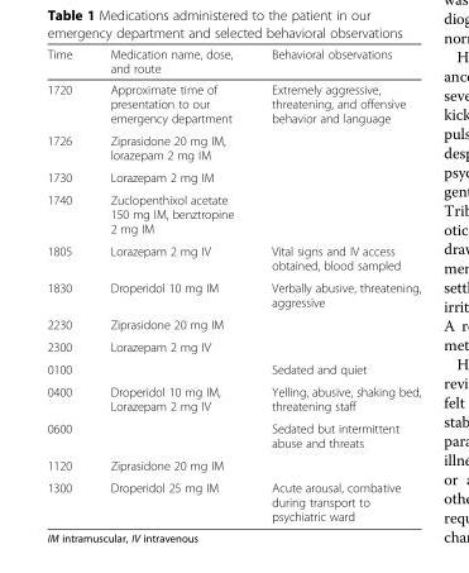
<table><thead><tr><td>Time</td><td>Medication name, dose, and route</td><td>Behavioral observations</td></tr></thead><tbody><tr><td>1720</td><td>Approximate time of presentation to our emergency department</td><td>Extremely aggressive, threatening, and offensive behavior and language</td></tr><tr><td>1726</td><td>Ziprasidone 20 mg IM, lorazepam 2 mg IM</td><td></td></tr><tr><td>1730</td><td>Lorazepam 2 mg IM</td><td></td></tr><tr><td>1740</td><td>Zuclopenthixol acetate 150 mg IM, benztropine 2 mg IM</td><td></td></tr><tr><td>1805</td><td>Lorazepam 2 mg IV</td><td>Vital signs and IV access obtained, blood sampled</td></tr><tr><td>1830</td><td>Droperidol 10 mg IM</td><td>Verbally abusive, threatening, aggressive</td></tr><tr><td>2230</td><td>Ziprasidone 20 mg IM</td><td></td></tr><tr><td>2300</td><td>Lorazepam 2 mg IV</td><td></td></tr><tr><td>0100</td><td></td><td>Sedated and quiet</td></tr><tr><td>0400</td><td>Droperidol 10 mg IM, Lorazepam 2 mg IV</td><td>Yelling, abusive, shaking bed, threatening staff</td></tr><tr><td>0600</td><td></td><td>Sedated but intermittent abuse and threats</td></tr><tr><td>1120</td><td>Ziprasidone 20 mg IM</td><td></td></tr><tr><td>1300</td><td>Droperidol 25 mg IM</td><td>Acute arousal, combative during transport to psychiatric ward</td></tr></tbody></table>